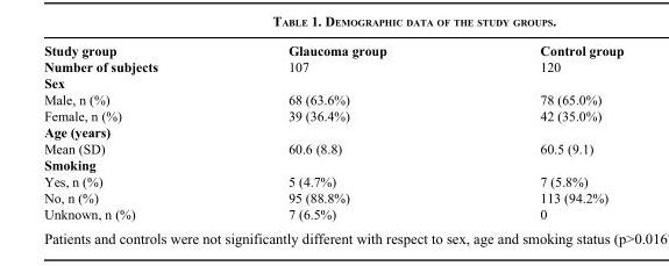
<table><thead><tr><td>Study group</td><td>Glaucoma group</td><td>Control group</td></tr></thead><tbody><tr><td>Number of subjects</td><td>107</td><td>120</td></tr><tr><td colspan="3">Sex</td></tr><tr><td>Male, n (%)</td><td>68 (63.6%)</td><td>78 (65.0%)</td></tr><tr><td>Female, n (%)</td><td>39 (36.4%)</td><td>42 (35.0%)</td></tr><tr><td colspan="3">Age (years)</td></tr><tr><td>Mean (SD)</td><td>60.6 (8.8)</td><td>60.5 (9.1)</td></tr><tr><td colspan="3">Smoking</td></tr><tr><td>Yes, n (%)</td><td>5 (4.7%)</td><td>7 (5.8%)</td></tr><tr><td>No, n (%)</td><td>95 (88.8%)</td><td>113 (94.2%)</td></tr><tr><td>Unknown, n (%)</td><td>7 (6.5%)</td><td>0</td></tr></tbody></table>